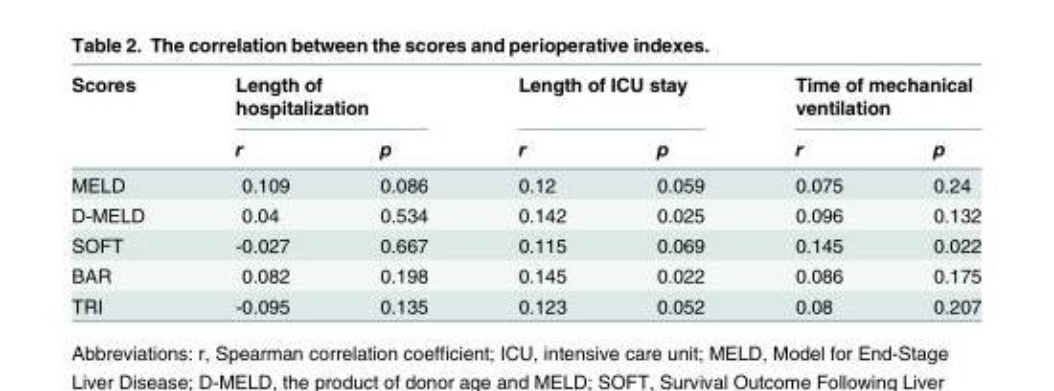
<table><thead><tr><td rowspan="2">Scores</td><td colspan="2">Length of hospitalization</td><td colspan="2">Length of ICU stay</td><td colspan="2">Time of mechanical ventilation</td></tr><tr><td>r</td><td>p</td><td>r</td><td>p</td><td>r</td><td>p</td></tr></thead><tbody><tr><td>MELD</td><td>0.109</td><td>0.086</td><td>0.12</td><td>0.059</td><td>0.075</td><td>0.24</td></tr><tr><td>D-MELD</td><td>0.04</td><td>0.534</td><td>0.142</td><td>0.025</td><td>0.096</td><td>0.132</td></tr><tr><td>SOFT</td><td>-0.027</td><td>0.667</td><td>0.115</td><td>0.069</td><td>0.145</td><td>0.022</td></tr><tr><td>BAR</td><td>0.082</td><td>0.198</td><td>0.145</td><td>0.022</td><td>0.086</td><td>0.175</td></tr><tr><td>TRI</td><td>-0.095</td><td>0.135</td><td>0.123</td><td>0.052</td><td>0.08</td><td>0.207</td></tr></tbody></table>